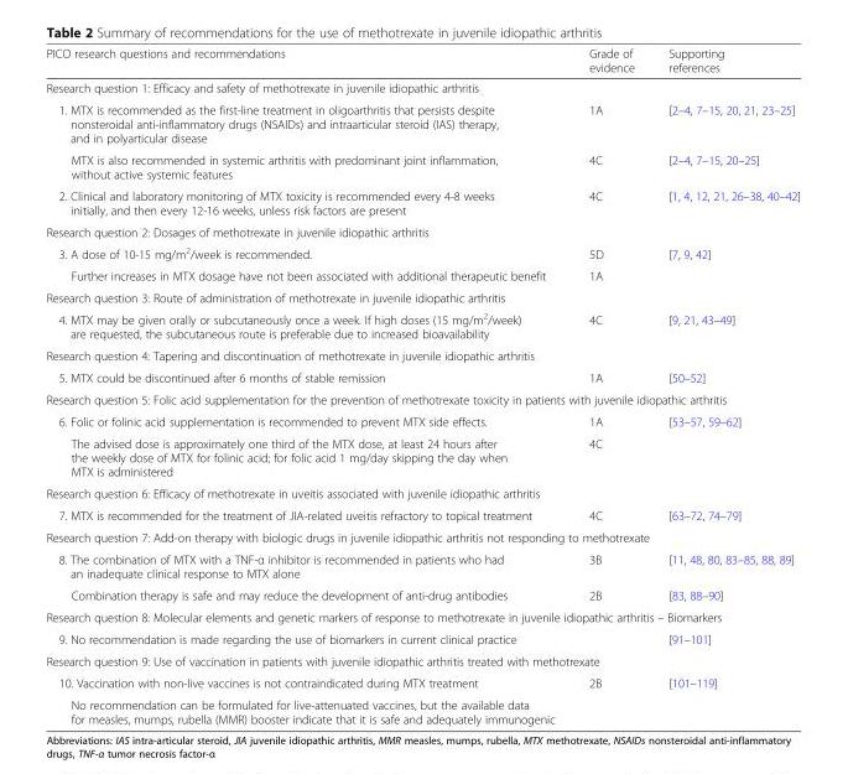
<table><thead><tr><td>PICO research questions and recommendations</td><td>Grade of evidence</td><td>Supporting references</td></tr></thead><tbody><tr><td colspan="3">Research question 1: Efficacy and safety of methotrexate in juvenile idiopathic arthritis</td></tr><tr><td>1. MTX is recommended as the first-line treatment in oligoarthritis that persists despite nonsteroidal anti-inflammatory drugs (NSAIDs) and intraarticular steroid (IAS) therapy, and in polyarticular disease</td><td>1A</td><td>[2–4, 7–15, 20, 21, 23–25]</td></tr><tr><td>MTX is also recommended in systemic arthritis with predominant joint inflammation, without active systemic features</td><td>4C</td><td>[2–4, 7–15, 20–25]</td></tr><tr><td>2. Clinical and laboratory monitoring of MTX toxicity is recommended every 4-8 weeks initially, and then every 12-16 weeks, unless risk factors are present</td><td>4C</td><td>[1, 4, 12, 21, 26–38, 40–42]</td></tr><tr><td colspan="3">Research question 2: Dosages of methotrexate in juvenile idiopathic arthritis</td></tr><tr><td>3. A dose of 10-15 mg/m<sup>2</sup>/week is recommended.</td><td>5D</td><td>[7, 9, 42]</td></tr><tr><td>Further increases in MTX dosage have not been associated with additional therapeutic benefit</td><td>1A</td><td></td></tr><tr><td colspan="3">Research question 3: Route of administration of methotrexate in juvenile idiopathic arthritis</td></tr><tr><td>4. MTX may be given orally or subcutaneously once a week. If high doses (15 mg/m<sup>2</sup>/week) are requested, the subcutaneous route is preferable due to increased bioavailability</td><td>4C</td><td>[9, 21, 43–49]</td></tr><tr><td colspan="3">Research question 4: Tapering and discontinuation of methotrexate in juvenile idiopathic arthritis</td></tr><tr><td>5. MTX could be discontinued after 6 months of stable remission</td><td>1A</td><td>[50–52]</td></tr><tr><td colspan="3">Research question 5: Folic acid supplementation for the prevention of methotrexate toxicity in patients with juvenile idiopathic arthritis</td></tr><tr><td>6. Folic or folinic acid supplementation is recommended to prevent MTX side effects.</td><td>1A</td><td>[53–57, 59–62]</td></tr><tr><td>The advised dose is approximately one third of the MTX dose, at least 24 hours after the weekly dose of MTX for folinic acid; for folic acid 1 mg/day skipping the day when MTX is administered</td><td>4C</td><td></td></tr><tr><td colspan="3">Research question 6: Efficacy of methotrexate in uveitis associated with juvenile idiopathic arthritis</td></tr><tr><td>7. MTX is recommended for the treatment of JIA-related uveitis refractory to topical treatment</td><td>4C</td><td>[63–72, 74–79]</td></tr><tr><td colspan="3">Research question 7: Add-on therapy with biologic drugs in juvenile idiopathic arthritis not responding to methotrexate</td></tr><tr><td>8. The combination of MTX with a TNF-α inhibitor is recommended in patients who had an inadequate clinical response to MTX alone</td><td>3B</td><td>[11, 48, 80, 83–85, 88, 89]</td></tr><tr><td>Combination therapy is safe and may reduce the development of anti-drug antibodies</td><td>2B</td><td>[83, 88–90]</td></tr><tr><td colspan="3">Research question 8: Molecular elements and genetic markers of response to methotrexate in juvenile idiopathic arthritis – Biomarkers</td></tr><tr><td>9. No recommendation is made regarding the use of biomarkers in current clinical practice</td><td></td><td>[91–101]</td></tr><tr><td colspan="3">Research question 9: Use of vaccination in patients with juvenile idiopathic arthritis treated with methotrexate</td></tr><tr><td>10. Vaccination with non-live vaccines is not contraindicated during MTX treatment</td><td>2B</td><td>[101–119]</td></tr><tr><td>No recommendation can be formulated for live-attenuated vaccines, but the available data for measles, mumps, rubella (MMR) booster indicate that it is safe and adequately immunogenic</td><td></td><td></td></tr></tbody></table>